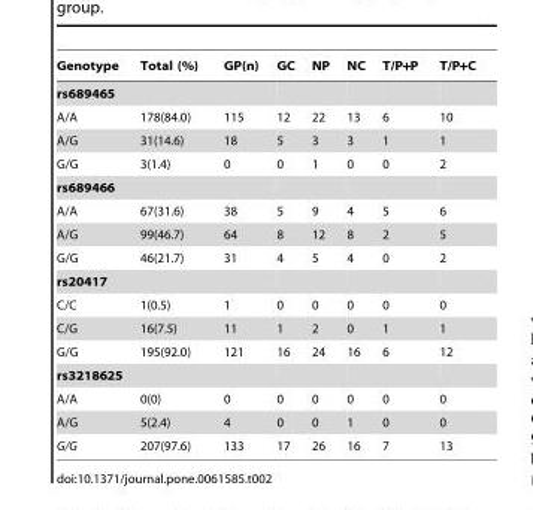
<table><thead><tr><td>Genotype</td><td>Total (%)</td><td>GP(n)</td><td>GC</td><td>NP</td><td>NC</td><td>T/P+P</td><td>T/P+C</td></tr></thead><tbody><tr><td colspan="8">rs689465</td></tr><tr><td>A/A</td><td>178(84.0)</td><td>115</td><td>12</td><td>22</td><td>13</td><td>6</td><td>10</td></tr><tr><td>A/G</td><td>31(14.6)</td><td>18</td><td>5</td><td>3</td><td>3</td><td>1</td><td>1</td></tr><tr><td>G/G</td><td>3(1.4)</td><td>0</td><td>0</td><td>1</td><td>0</td><td>0</td><td>2</td></tr><tr><td colspan="8">rs689466</td></tr><tr><td>A/A</td><td>67(31.6)</td><td>38</td><td>5</td><td>9</td><td>4</td><td>5</td><td>6</td></tr><tr><td>A/G</td><td>99(46.7)</td><td>64</td><td>8</td><td>12</td><td>8</td><td>2</td><td>5</td></tr><tr><td>G/G</td><td>46(21.7)</td><td>31</td><td>4</td><td>5</td><td>4</td><td>0</td><td>2</td></tr><tr><td colspan="8">rs20417</td></tr><tr><td>C/C</td><td>1(0.5)</td><td>1</td><td>0</td><td>0</td><td>0</td><td>0</td><td>0</td></tr><tr><td>C/G</td><td>16(7.5)</td><td>11</td><td>1</td><td>2</td><td>0</td><td>1</td><td>1</td></tr><tr><td>G/G</td><td>195(92.0)</td><td>121</td><td>16</td><td>24</td><td>16</td><td>6</td><td>12</td></tr><tr><td colspan="8">rs3218625</td></tr><tr><td>A/A</td><td>0(0)</td><td>0</td><td>0</td><td>0</td><td>0</td><td>0</td><td>0</td></tr><tr><td>A/G</td><td>5(2.4)</td><td>4</td><td>0</td><td>0</td><td>1</td><td>0</td><td>0</td></tr><tr><td>G/G</td><td>207(97.6)</td><td>133</td><td>17</td><td>26</td><td>16</td><td>7</td><td>13</td></tr></tbody></table>